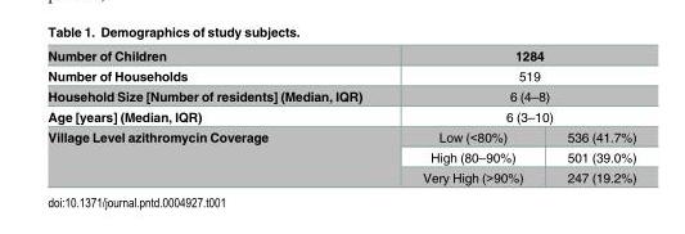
<table><tbody><tr><td>Number of Children</td><td colspan="2">1284</td></tr><tr><td>Number of Households</td><td colspan="2">519</td></tr><tr><td>Household Size [Number of residents] (Median, IQR)</td><td colspan="2">6 (4–8)</td></tr><tr><td>Age [years] (Median, IQR)</td><td colspan="2">6 (3–10)</td></tr><tr><td rowspan="3">Village Level azithromycin Coverage</td><td>Low (&lt;80%)</td><td>536 (41.7%)</td></tr><tr><td>High (80–90%)</td><td>501 (39.0%)</td></tr><tr><td>Very High (&gt;90%)</td><td>247 (19.2%)</td></tr></tbody></table>